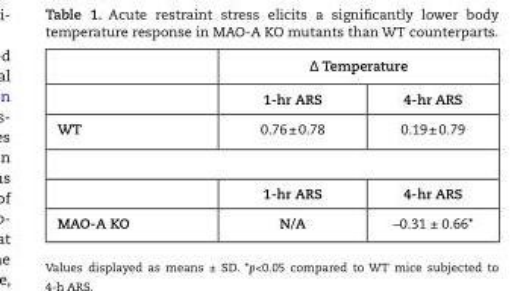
<table><thead><tr><td rowspan="2"></td><td colspan="2">∆ Temperature</td></tr><tr><td>1-hr ARS</td><td>4-hr ARS</td></tr></thead><tbody><tr><td rowspan="2">WT</td><td>0.76 ± 0.78</td><td>0.19 ± 0.79</td></tr><tr><td>1-hr ARS</td><td>4-hr ARS</td></tr><tr><td>MAO-A KO</td><td>N/A</td><td>–0.31 ± 0.66*</td></tr></tbody></table>